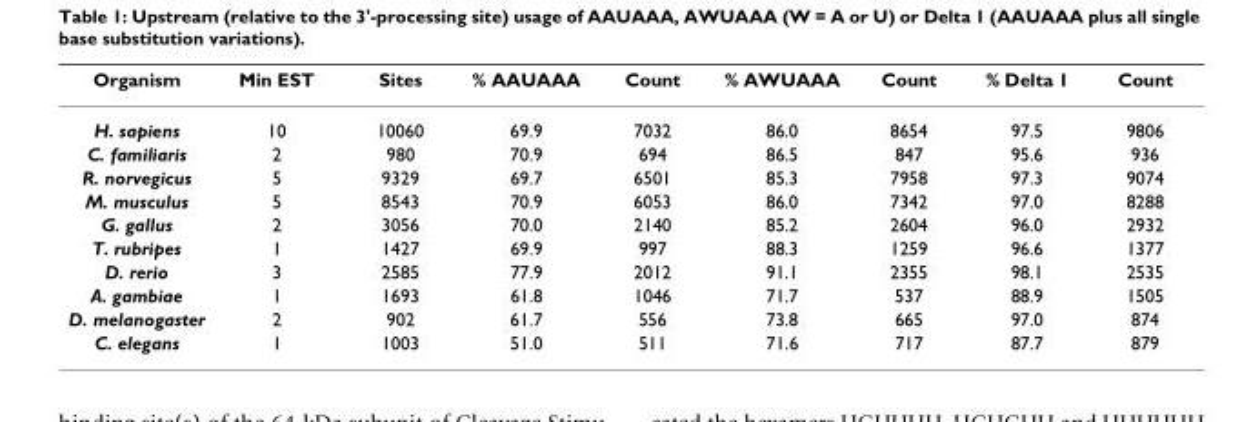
<table><thead><tr><td>Organism</td><td>Min EST</td><td>Sites</td><td>% AAUAAA</td><td>Count</td><td>% AWUAAA</td><td>Count</td><td>% Delta 1</td><td>Count</td></tr></thead><tbody><tr><td>H. sapiens</td><td>10</td><td>10060</td><td>69.9</td><td>7032</td><td>86.0</td><td>8654</td><td>97.5</td><td>9806</td></tr><tr><td>C. familiaris</td><td>2</td><td>980</td><td>70.9</td><td>694</td><td>86.5</td><td>847</td><td>95.6</td><td>936</td></tr><tr><td>R. norvegicus</td><td>5</td><td>9329</td><td>69.7</td><td>6501</td><td>85.3</td><td>7958</td><td>97.3</td><td>9074</td></tr><tr><td>M. musculus</td><td>5</td><td>8543</td><td>70.9</td><td>6053</td><td>86.0</td><td>7342</td><td>97.0</td><td>8288</td></tr><tr><td>G. gallus</td><td>2</td><td>3056</td><td>70.0</td><td>2140</td><td>85.2</td><td>2604</td><td>96.0</td><td>2932</td></tr><tr><td>T. rubripes</td><td>1</td><td>1427</td><td>69.9</td><td>997</td><td>88.3</td><td>1259</td><td>96.6</td><td>1377</td></tr><tr><td>D. rerio</td><td>3</td><td>2585</td><td>77.9</td><td>2012</td><td>91.1</td><td>2355</td><td>98.1</td><td>2535</td></tr><tr><td>A. gambiae</td><td>1</td><td>1693</td><td>61.8</td><td>1046</td><td>71.7</td><td>537</td><td>88.9</td><td>1505</td></tr><tr><td>D. melanogaster</td><td>2</td><td>902</td><td>61.7</td><td>556</td><td>73.8</td><td>665</td><td>97.0</td><td>874</td></tr><tr><td>C. elegans</td><td>1</td><td>1003</td><td>51.0</td><td>511</td><td>71.6</td><td>717</td><td>87.7</td><td>879</td></tr></tbody></table>